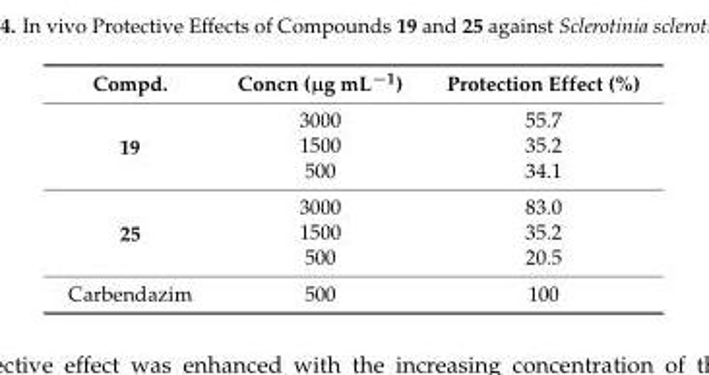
<table><thead><tr><td>Compd.</td><td>Concn (µg mL−1)</td><td>Protection Effect (%)</td></tr></thead><tbody><tr><td rowspan="3">19</td><td>3000</td><td>55.7</td></tr><tr><td>1500</td><td>35.2</td></tr><tr><td>500</td><td>34.1</td></tr><tr><td rowspan="3">25</td><td>3000</td><td>83.0</td></tr><tr><td>1500</td><td>35.2</td></tr><tr><td>500</td><td>20.5</td></tr><tr><td>Carbendazim</td><td>500</td><td>100</td></tr></tbody></table>